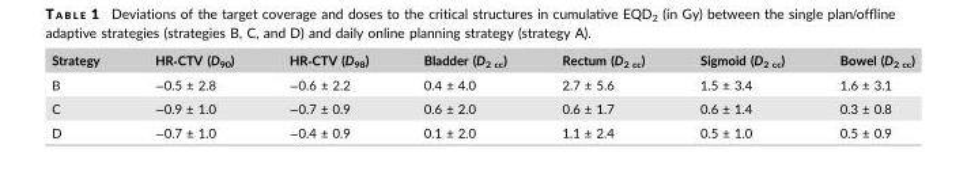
<table><thead><tr><td>Strategy</td><td>HR‐CTV (D<sub>90</sub>)</td><td>HR‐CTV (D<sub>98</sub>)</td><td>Bladder (D<sub>2 cc</sub>)</td><td>Rectum (D<sub>2 cc</sub>)</td><td>Sigmoid (D<sub>2 cc</sub>)</td><td>Bowel (D<sub>2 cc</sub>)</td></tr></thead><tbody><tr><td>B</td><td>−0.5 ± 2.8</td><td>−0.6 ± 2.2</td><td>0.4 ± 4.0</td><td>2.7 ± 5.6</td><td>1.5 ± 3.4</td><td>1.6 ± 3.1</td></tr><tr><td>C</td><td>−0.9 ± 1.0</td><td>−0.7 ± 0.9</td><td>0.6 ± 2.0</td><td>0.6 ± 1.7</td><td>0.6 ± 1.4</td><td>0.3 ± 0.8</td></tr><tr><td>D</td><td>−0.7 ± 1.0</td><td>−0.4 ± 0.9</td><td>0.1 ± 2.0</td><td>1.1 ± 2.4</td><td>0.5 ± 1.0</td><td>0.5 ± 0.9</td></tr></tbody></table>